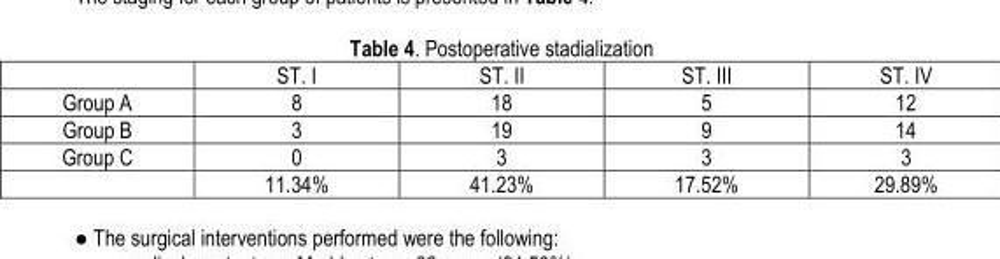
<table><thead><tr><td></td><td>ST. I</td><td>ST. II</td><td>ST. III</td><td>ST. IV</td></tr></thead><tbody><tr><td>Group A</td><td>8</td><td>18</td><td>5</td><td>12</td></tr><tr><td>Group B</td><td>3</td><td>19</td><td>9</td><td>14</td></tr><tr><td rowspan="2">Group C</td><td>0</td><td>3</td><td>3</td><td>3</td></tr><tr><td>11.34%</td><td>41.23%</td><td>17.52%</td><td>29.89%</td></tr></tbody></table>